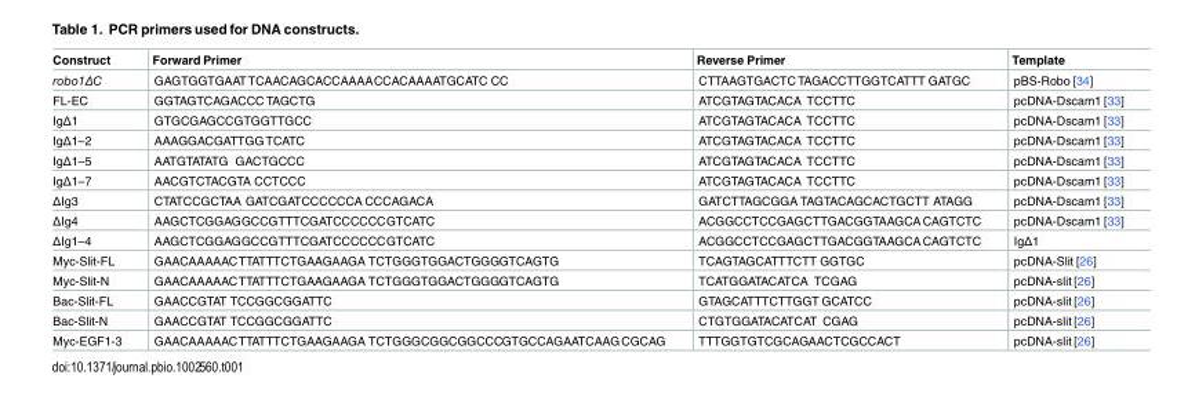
<table><thead><tr><td>Construct</td><td>Forward Primer</td><td>Reverse Primer</td><td>Template</td></tr></thead><tbody><tr><td>robo1ΔC</td><td>GAGTGGTGAATTCAACAGCACCAAAACCACAAAATGCATC CC</td><td>CTTAAGTGACTCTAGACCTTGGTCATTT GATGC</td><td>pBS-Robo [34]</td></tr><tr><td>FL-EC</td><td>GGTAGTCAGACCC TAGCTG</td><td>ATCGTAGTACACA TCCTTC</td><td>pcDNA-Dscam1 [33]</td></tr><tr><td>IgΔ1</td><td>GTGCGAGCCGTGGTTGCC</td><td>ATCGTAGTACACA TCCTTC</td><td>pcDNA-Dscam1 [33]</td></tr><tr><td>IgΔ1–2</td><td>AAAGGACGATTGGTCATC</td><td>ATCGTAGTACACA TCCTTC</td><td>pcDNA-Dscam1 [33]</td></tr><tr><td>IgΔ1–5</td><td>AATGTATATG GACTGCCC</td><td>ATCGTAGTACACA TCCTTC</td><td>pcDNA-Dscam1 [33]</td></tr><tr><td>IgΔ1–7</td><td>AACGTCTACGTA CCTCCC</td><td>ATCGTAGTACACA TCCTTC</td><td>pcDNA-Dscam1 [33]</td></tr><tr><td>ΔIg3</td><td>CTATCCGCTAA GATCGATCCCCCCA CCCAGACA</td><td>GATCTTAGCGGA TAGTACAGCACTGCTT ATAGG</td><td>pcDNA-Dscam1 [33]</td></tr><tr><td>ΔIg4</td><td>AAGCTCGGAGGCCGTTTCGATCCCCCCGTCATC</td><td>ACGGCCTCCGAGCTTGACGGTAAGCACAGTCTC</td><td>pcDNA-Dscam1 [33]</td></tr><tr><td>ΔIg1–4</td><td>AAGCTCGGAGGCCGTTTCGATCCCCCCGTCATC</td><td>ACGGCCTCCGAGCTTGACGGTAAGCACAGTCTC</td><td>IgΔ1</td></tr><tr><td>Myc-Slit-FL</td><td>GAACAAAAACTTATTTCTGAAGAAGA TCTGGGTGGACTGGGGTCAGTG</td><td>TCAGTAGCATTTCTT GGTGC</td><td>pcDNA-Slit [26]</td></tr><tr><td>Myc-Slit-N</td><td>GAACAAAAACTTATTTCTGAAGAAGA TCTGGGTGGACTGGGGTCAGTG</td><td>TCATGGATACATCA TCGAG</td><td>pcDNA-slit [26]</td></tr><tr><td>Bac-Slit-FL</td><td>GAACCGTAT TCCGGCGGATTC</td><td>GTAGCATTTCTTGGT GCATCC</td><td>pcDNA-slit [26]</td></tr><tr><td>Bac-Slit-N</td><td>GAACCGTAT TCCGGCGGATTC</td><td>CTGTGGATACATCAT CGAG</td><td>pcDNA-slit [26]</td></tr><tr><td>Myc-EGF1-3</td><td>GAACAAAAACTTATTTCTGAAGAAGA TCTGGGCGGCGGCCCGTGCCAGAATCAAGCGCAG</td><td>TTTGGTGTCGCAGAACTCGCCACT</td><td>pcDNA-slit [26]</td></tr></tbody></table>